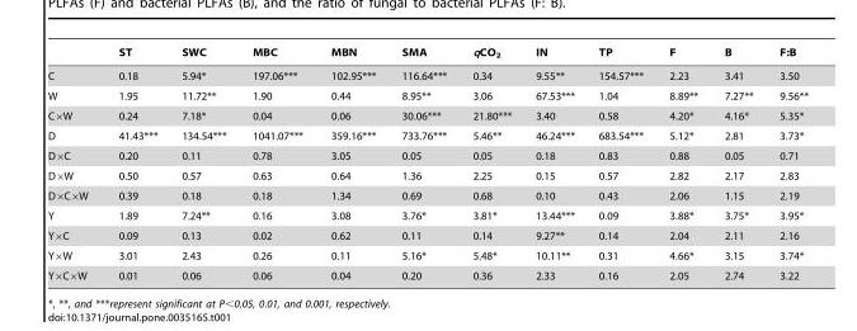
<table><thead><tr><td></td><td>ST</td><td>SWC</td><td>MBC</td><td>MBN</td><td>SMA</td><td>qCO<sub>2</sub></td><td>IN</td><td>TP</td><td>F</td><td>B</td><td>F:B</td></tr></thead><tbody><tr><td>C</td><td>0.18</td><td>5.94*</td><td>197.06***</td><td>102.95***</td><td>116.64***</td><td>0.34</td><td>9.55**</td><td>154.57***</td><td>2.23</td><td>3.41</td><td>3.50</td></tr><tr><td>W</td><td>1.95</td><td>11.72**</td><td>1.90</td><td>0.44</td><td>8.95**</td><td>3.06</td><td>67.53***</td><td>1.04</td><td>8.89**</td><td>7.27**</td><td>9.56**</td></tr><tr><td>C×W</td><td>0.24</td><td>7.18*</td><td>0.04</td><td>0.06</td><td>30.06***</td><td>21.80***</td><td>3.40</td><td>0.58</td><td>4.20*</td><td>4.16*</td><td>5.35*</td></tr><tr><td>D</td><td>41.43***</td><td>134.54***</td><td>1041.07***</td><td>359.16***</td><td>733.76***</td><td>5.46**</td><td>46.24***</td><td>683.54***</td><td>5.12*</td><td>2.81</td><td>3.73*</td></tr><tr><td>D×C</td><td>0.20</td><td>0.11</td><td>0.78</td><td>3.05</td><td>0.05</td><td>0.05</td><td>0.18</td><td>0.83</td><td>0.88</td><td>0.05</td><td>0.71</td></tr><tr><td>D×W</td><td>0.50</td><td>0.57</td><td>0.63</td><td>0.64</td><td>1.36</td><td>2.25</td><td>0.15</td><td>0.57</td><td>2.82</td><td>2.17</td><td>2.83</td></tr><tr><td>D×C×W</td><td>0.39</td><td>0.18</td><td>0.18</td><td>1.34</td><td>0.69</td><td>0.68</td><td>0.10</td><td>0.43</td><td>2.06</td><td>1.15</td><td>2.19</td></tr><tr><td>Y</td><td>1.89</td><td>7.24**</td><td>0.16</td><td>3.08</td><td>3.76*</td><td>3.81*</td><td>13.44***</td><td>0.09</td><td>3.88*</td><td>3.75*</td><td>3.95*</td></tr><tr><td>Y×C</td><td>0.09</td><td>0.13</td><td>0.02</td><td>0.62</td><td>0.11</td><td>0.14</td><td>9.27**</td><td>0.14</td><td>2.04</td><td>2.11</td><td>2.16</td></tr><tr><td>Y×W</td><td>3.01</td><td>2.43</td><td>0.26</td><td>0.11</td><td>5.16*</td><td>5.48*</td><td>10.11**</td><td>0.31</td><td>4.66*</td><td>3.15</td><td>3.74*</td></tr><tr><td>Y×C×W</td><td>0.01</td><td>0.06</td><td>0.06</td><td>0.04</td><td>0.20</td><td>0.36</td><td>2.33</td><td>0.16</td><td>2.05</td><td>2.74</td><td>3.22</td></tr></tbody></table>